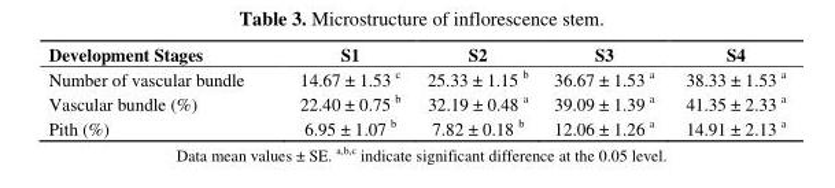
<table><thead><tr><td>Development Stages</td><td>S1</td><td>S2</td><td>S3</td><td>S4</td></tr></thead><tbody><tr><td>Number of vascular bundle</td><td>14.67 ± 1.53 c</td><td>25.33 ± 1.15 b</td><td>36.67 ± 1.53 a</td><td>38.33 ± 1.53 a</td></tr><tr><td>Vascular bundle (%)</td><td>22.40 ± 0.75 b</td><td>32.19 ± 0.48 a</td><td>39.09 ± 1.39 a</td><td>41.35 ± 2.33 a</td></tr><tr><td>Pith (%)</td><td>6.95 ± 1.07 b</td><td>7.82 ± 0.18 b</td><td>12.06 ± 1.26 a</td><td>14.91 ± 2.13 a</td></tr></tbody></table>